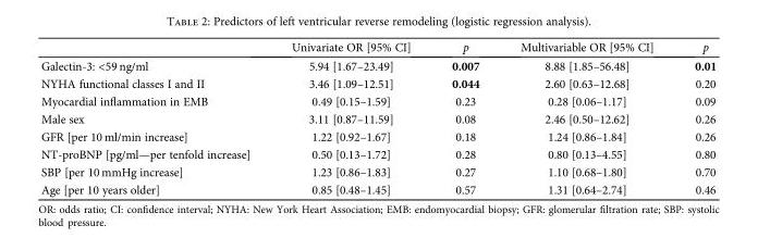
<table><thead><tr><td></td><td>Univariate OR [95% CI]</td><td>p</td><td>Multivariable OR [95% CI]</td><td>p</td></tr></thead><tbody><tr><td>Galectin-3: &lt;59 ng/ml</td><td>5.94 [1.67–23.49]</td><td>0.007</td><td>8.88 [1.85–56.48]</td><td>0.01</td></tr><tr><td>NYHA functional classes I and II</td><td>3.46 [1.09–12.51]</td><td>0.044</td><td>2.60 [0.63–12.68]</td><td>0.20</td></tr><tr><td>Myocardial inflammation in EMB</td><td>0.49 [0.15–1.59]</td><td>0.23</td><td>0.28 [0.06–1.17]</td><td>0.09</td></tr><tr><td>Male sex</td><td>3.11 [0.87–11.59]</td><td>0.08</td><td>2.46 [0.50–12.62]</td><td>0.26</td></tr><tr><td>GFR [per 10 ml/min increase]</td><td>1.22 [0.92–1.67]</td><td>0.18</td><td>1.24 [0.86–1.84]</td><td>0.26</td></tr><tr><td>NT-proBNP [pg/ml—per tenfold increase]</td><td>0.50 [0.13–1.72]</td><td>0.28</td><td>0.80 [0.13–4.55]</td><td>0.80</td></tr><tr><td>SBP [per 10 mmHg increase]</td><td>1.23 [0.86–1.83]</td><td>0.27</td><td>1.10 [0.68–1.80]</td><td>0.70</td></tr><tr><td>Age [per 10 years older]</td><td>0.85 [0.48–1.45]</td><td>0.57</td><td>1.31 [0.64–2.74]</td><td>0.46</td></tr></tbody></table>